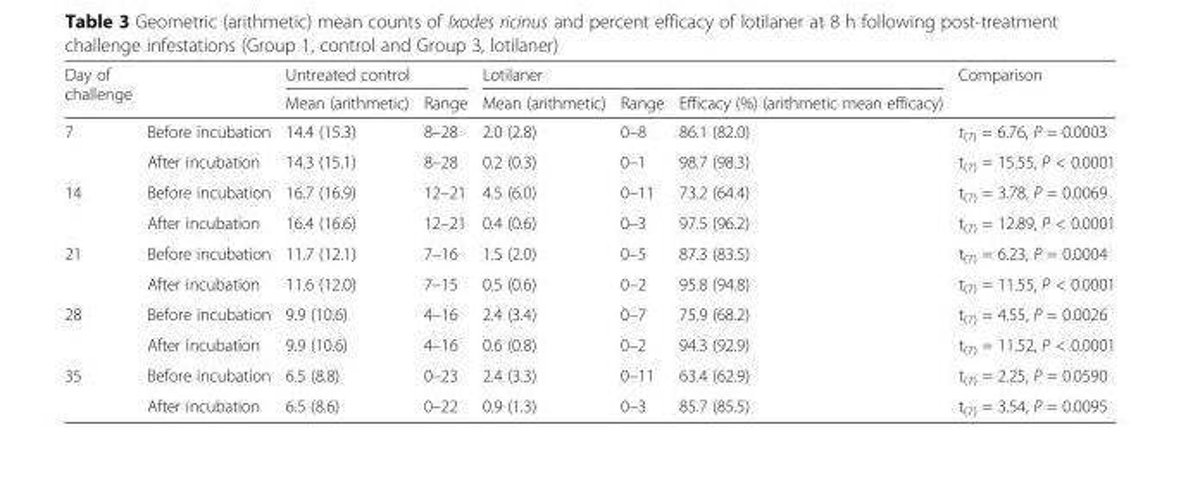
<table><thead><tr><td rowspan="2">Day of challenge</td><td rowspan="2"></td><td colspan="2">Untreated control</td><td colspan="3">Lotilaner</td><td rowspan="2">Comparison</td></tr><tr><td>Mean (arithmetic)</td><td>Range</td><td>Mean (arithmetic)</td><td>Range</td><td>Efficacy (%) (arithmetic mean efficacy)</td></tr></thead><tbody><tr><td rowspan="2">7</td><td>Before incubation</td><td>14.4 (15.3)</td><td>8–28</td><td>2.0 (2.8)</td><td>0–8</td><td>86.1 (82.0)</td><td>t<sub>(7)</sub> = 6.76, P = 0.0003</td></tr><tr><td>After incubation</td><td>14.3 (15.1)</td><td>8–28</td><td>0.2 (0.3)</td><td>0–1</td><td>98.7 (98.3)</td><td>t<sub>(7)</sub> = 15.55, P &lt; 0.0001</td></tr><tr><td rowspan="2">14</td><td>Before incubation</td><td>16.7 (16.9)</td><td>12–21</td><td>4.5 (6.0)</td><td>0–11</td><td>73.2 (64.4)</td><td>t<sub>(7)</sub> = 3.78, P = 0.0069</td></tr><tr><td>After incubation</td><td>16.4 (16.6)</td><td>12–21</td><td>0.4 (0.6)</td><td>0–3</td><td>97.5 (96.2)</td><td>t<sub>(7)</sub> = 12.89, P &lt; 0.0001</td></tr><tr><td rowspan="2">21</td><td>Before incubation</td><td>11.7 (12.1)</td><td>7–16</td><td>1.5 (2.0)</td><td>0–5</td><td>87.3 (83.5)</td><td>t<sub>(7)</sub> = 6.23, P = 0.0004</td></tr><tr><td>After incubation</td><td>11.6 (12.0)</td><td>7–15</td><td>0.5 (0.6)</td><td>0–2</td><td>95.8 (94.8)</td><td>t<sub>(7)</sub> = 11.55, P &lt; 0.0001</td></tr><tr><td rowspan="2">28</td><td>Before incubation</td><td>9.9 (10.6)</td><td>4–16</td><td>2.4 (3.4)</td><td>0–7</td><td>75.9 (68.2)</td><td>t<sub>(7)</sub> = 4.55, P = 0.0026</td></tr><tr><td>After incubation</td><td>9.9 (10.6)</td><td>4–16</td><td>0.6 (0.8)</td><td>0–2</td><td>94.3 (92.9)</td><td>t<sub>(7)</sub> = 11.52, P &lt; 0.0001</td></tr><tr><td rowspan="2">35</td><td>Before incubation</td><td>6.5 (8.8)</td><td>0–23</td><td>2.4 (3.3)</td><td>0–11</td><td>63.4 (62.9)</td><td>t<sub>(7)</sub> = 2.25, P = 0.0590</td></tr><tr><td>After incubation</td><td>6.5 (8.6)</td><td>0–22</td><td>0.9 (1.3)</td><td>0–3</td><td>85.7 (85.5)</td><td>t<sub>(7)</sub> = 3.54, P = 0.0095</td></tr></tbody></table>